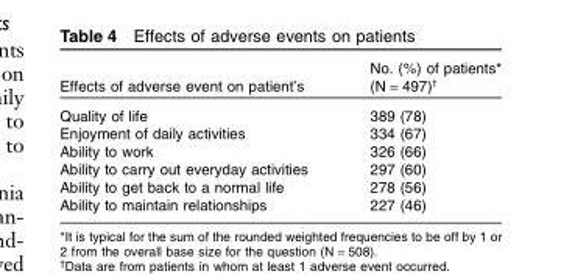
<table><thead><tr><td>Effects of adverse event on patient’s</td><td>No. (%) of patients* (N = 497)†</td></tr></thead><tbody><tr><td>Quality of life</td><td>389 (78)</td></tr><tr><td>Enjoyment of daily activities</td><td>334 (67)</td></tr><tr><td>Ability to work</td><td>326 (66)</td></tr><tr><td>Ability to carry out everyday activities</td><td>297 (60)</td></tr><tr><td>Ability to get back to a normal life</td><td>278 (56)</td></tr><tr><td>Ability to maintain relationships</td><td>227 (46)</td></tr></tbody></table>